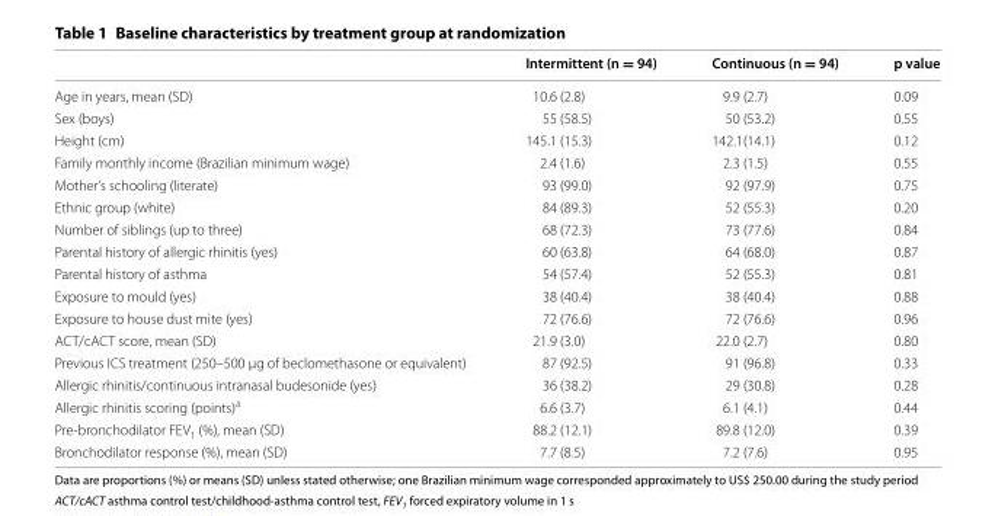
<table><thead><tr><td></td><td>Intermittent (n = 94)</td><td>Continuous (n = 94)</td><td>p value</td></tr></thead><tbody><tr><td>Age in years, mean (SD)</td><td>10.6 (2.8)</td><td>9.9 (2.7)</td><td>0.09</td></tr><tr><td>Sex (boys)</td><td>55 (58.5)</td><td>50 (53.2)</td><td>0.55</td></tr><tr><td>Height (cm)</td><td>145.1 (15.3)</td><td>142.1(14.1)</td><td>0.12</td></tr><tr><td>Family monthly income (Brazilian minimum wage)</td><td>2.4 (1.6)</td><td>2.3 (1.5)</td><td>0.55</td></tr><tr><td>Mother’s schooling (literate)</td><td>93 (99.0)</td><td>92 (97.9)</td><td>0.75</td></tr><tr><td>Ethnic group (white)</td><td>84 (89.3)</td><td>52 (55.3)</td><td>0.20</td></tr><tr><td>Number of siblings (up to three)</td><td>68 (72.3)</td><td>73 (77.6)</td><td>0.84</td></tr><tr><td>Parental history of allergic rhinitis (yes)</td><td>60 (63.8)</td><td>64 (68.0)</td><td>0.87</td></tr><tr><td>Parental history of asthma</td><td>54 (57.4)</td><td>52 (55.3)</td><td>0.81</td></tr><tr><td>Exposure to mould (yes)</td><td>38 (40.4)</td><td>38 (40.4)</td><td>0.88</td></tr><tr><td>Exposure to house dust mite (yes)</td><td>72 (76.6)</td><td>72 (76.6)</td><td>0.96</td></tr><tr><td>ACT/cACT score, mean (SD)</td><td>21.9 (3.0)</td><td>22.0 (2.7)</td><td>0.80</td></tr><tr><td>Previous ICS treatment (250–500 μg of beclomethasone or equivalent)</td><td>87 (92.5)</td><td>91 (96.8)</td><td>0.33</td></tr><tr><td>Allergic rhinitis/continuous intranasal budesonide (yes)</td><td>36 (38.2)</td><td>29 (30.8)</td><td>0.28</td></tr><tr><td>Allergic rhinitis scoring (points)<sup>a</sup></td><td>6.6 (3.7)</td><td>6.1 (4.1)</td><td>0.44</td></tr><tr><td>Pre-bronchodilator FEV<sub>1</sub> (%), mean (SD)</td><td>88.2 (12.1)</td><td>89.8 (12.0)</td><td>0.39</td></tr><tr><td>Bronchodilator response (%), mean (SD)</td><td>7.7 (8.5)</td><td>7.2 (7.6)</td><td>0.95</td></tr></tbody></table>